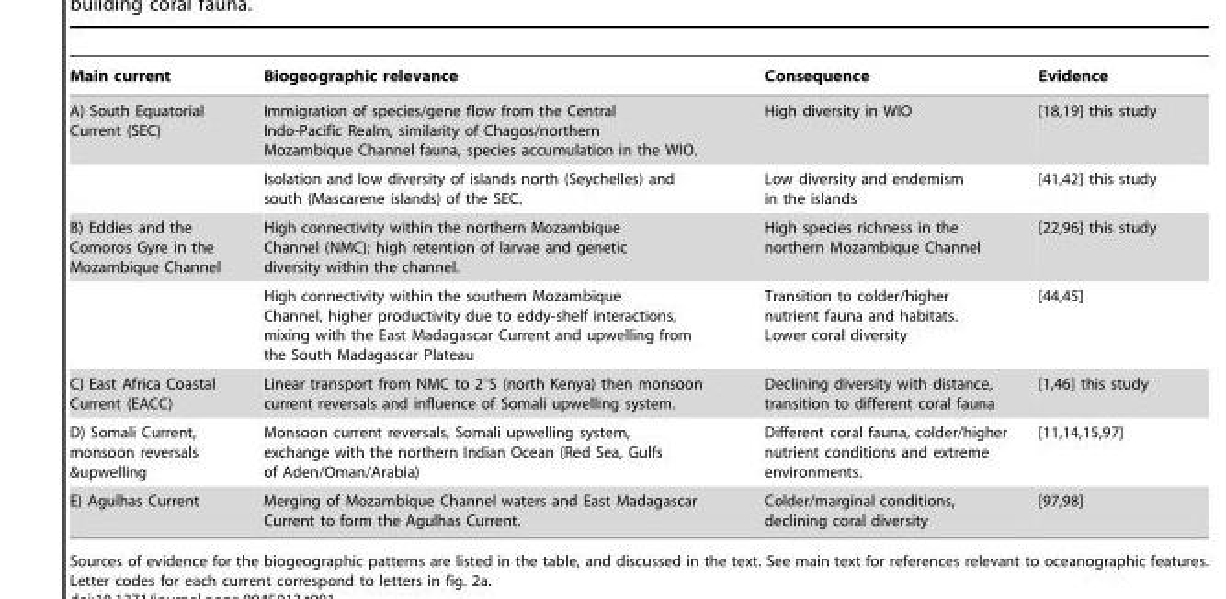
<table><thead><tr><td>Main current</td><td>Biogeographic relevance</td><td>Consequence</td><td>Evidence</td></tr></thead><tbody><tr><td rowspan="2">A) South Equatorial Current (SEC)</td><td>Immigration of species/gene flow from the Central Indo-Pacific Realm, similarity of Chagos/northern Mozambique Channel fauna, species accumulation in the WIO.</td><td>High diversity in WIO</td><td>[18,19] this study</td></tr><tr><td>Isolation and low diversity of islands north (Seychelles) and south (Mascarene islands) of the SEC.</td><td>Low diversity and endemism in the islands</td><td>[41,42] this study</td></tr><tr><td rowspan="2">B) Eddies and the Comoros Gyre in the Mozambique Channel</td><td>High connectivity within the northern Mozambique Channel (NMC); high retention of larvae and genetic diversity within the channel.</td><td>High species richness in the northern Mozambique Channel</td><td>[22,96] this study</td></tr><tr><td>High connectivity within the southern Mozambique Channel, higher productivity due to eddy-shelf interactions, mixing with the East Madagascar Current and upwelling from the South Madagascar Plateau</td><td>Transition to colder/higher nutrient fauna and habitats. Lower coral diversity</td><td>[44,45]</td></tr><tr><td>C) East Africa Coastal Current (EACC)</td><td>Linear transport from NMC to 2°S (north Kenya) then monsoon current reversals and influence of Somali upwelling system.</td><td>Declining diversity with distance, transition to different coral fauna</td><td>[1,46] this study</td></tr><tr><td>D) Somali Current, monsoon reversals &amp;upwelling</td><td>Monsoon current reversals, Somali upwelling system, exchange with the northern Indian Ocean (Red Sea, Gulfs of Aden/Oman/Arabia)</td><td>Different coral fauna, colder/higher nutrient conditions and extreme environments.</td><td>[11,14,15,97]</td></tr><tr><td>E) Agulhas Current</td><td>Merging of Mozambique Channel waters and East Madagascar Current to form the Agulhas Current.</td><td>Colder/marginal conditions, declining coral diversity</td><td>[97,98]</td></tr></tbody></table>